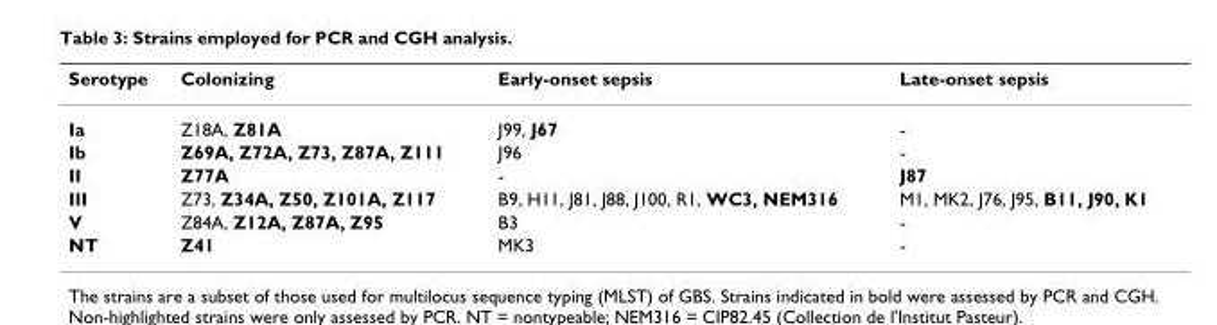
<table><thead><tr><td>Serotype</td><td>Colonizing</td><td>Early-onset sepsis</td><td>Late-onset sepsis</td></tr></thead><tbody><tr><td>Ia</td><td>Z18A, Z81A</td><td>J99, J67</td><td>-</td></tr><tr><td>Ib</td><td>Z69A, Z72A, Z73, Z87A, Z111</td><td>J96</td><td>-</td></tr><tr><td>II</td><td>Z77A</td><td>-</td><td>J87</td></tr><tr><td>III</td><td>Z73, Z34A, Z50, Z101A, Z117</td><td>B9, H11, J81, J88, J100, R1, WC3, NEM316</td><td>M1, MK2, J76, J95, B11, J90, K1</td></tr><tr><td>V</td><td>Z84A, Z12A, Z87A, Z95</td><td>B3</td><td>-</td></tr><tr><td>NT</td><td>Z41</td><td>MK3</td><td>-</td></tr></tbody></table>